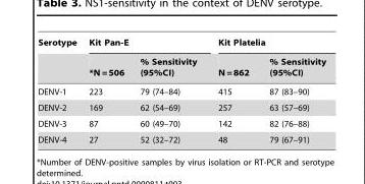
<table><thead><tr><td rowspan="2">Serotype</td><td colspan="2">Kit Pan-E</td><td colspan="2">Kit Platelia</td></tr><tr><td>*N = 506</td><td>% Sensitivity (95%CI)</td><td>N = 862</td><td>% Sensitivity (95%CI)</td></tr></thead><tbody><tr><td>DENV-1</td><td>223</td><td>79 (74–84)</td><td>415</td><td>87 (83–90)</td></tr><tr><td>DENV-2</td><td>169</td><td>62 (54–69)</td><td>257</td><td>63 (57–69)</td></tr><tr><td>DENV-3</td><td>87</td><td>60 (49–70)</td><td>142</td><td>82 (76–88)</td></tr><tr><td>DENV-4</td><td>27</td><td>52 (32–72)</td><td>48</td><td>79 (67–91)</td></tr></tbody></table>